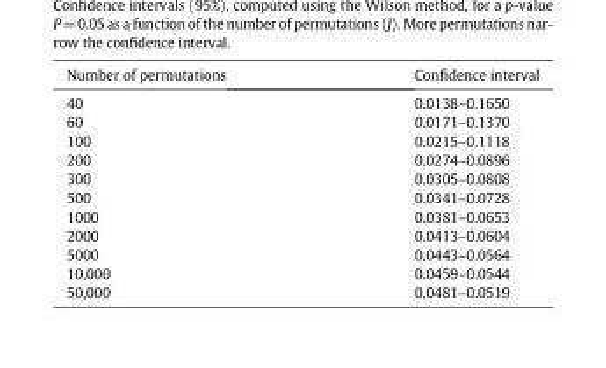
<table><thead><tr><td>Number of permutations</td><td>Confidence interval</td></tr></thead><tbody><tr><td>40</td><td>0.0138–0.1650</td></tr><tr><td>60</td><td>0.0171–0.1370</td></tr><tr><td>100</td><td>0.0215–0.1118</td></tr><tr><td>200</td><td>0.0274–0.0896</td></tr><tr><td>300</td><td>0.0305–0.0808</td></tr><tr><td>500</td><td>0.0341–0.0728</td></tr><tr><td>1000</td><td>0.0381–0.0653</td></tr><tr><td>2000</td><td>0.0413–0.0604</td></tr><tr><td>5000</td><td>0.0443–0.0564</td></tr><tr><td>10,000</td><td>0.0459–0.0544</td></tr><tr><td>50,000</td><td>0.0481–0.0519</td></tr></tbody></table>